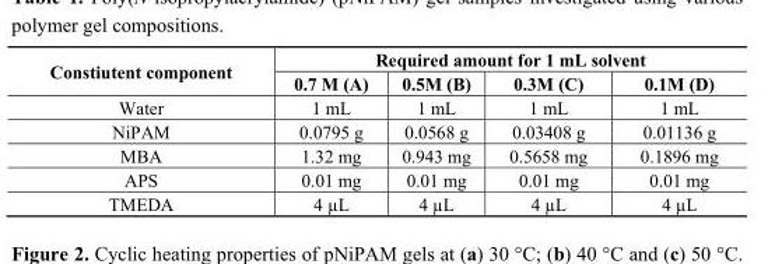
<table><thead><tr><td rowspan="2">Constiutent component</td><td colspan="4">Required amount for 1 mL solvent</td></tr><tr><td>0.7 M (A)</td><td>0.5M (B)</td><td>0.3M (C)</td><td>0.1M (D)</td></tr></thead><tbody><tr><td>Water</td><td>1 mL</td><td>1 mL</td><td>1 mL</td><td>1 mL</td></tr><tr><td>NiPAM</td><td>0.0795 g</td><td>0.0568 g</td><td>0.03408 g</td><td>0.01136 g</td></tr><tr><td>MBA</td><td>1.32 mg</td><td>0.943 mg</td><td>0.5658 mg</td><td>0.1896 mg</td></tr><tr><td>APS</td><td>0.01 mg</td><td>0.01 mg</td><td>0.01 mg</td><td>0.01 mg</td></tr><tr><td>TMEDA</td><td>4 µL</td><td>4 µL</td><td>4 µL</td><td>4 µL</td></tr></tbody></table>